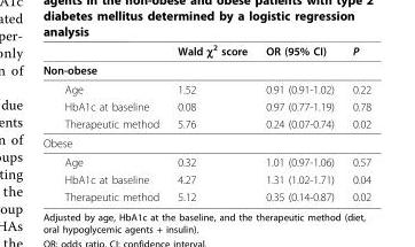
<table><thead><tr><td></td><td>Wald χ<sup>2</sup> score</td><td>OR (95% CI)</td><td>P</td></tr></thead><tbody><tr><td colspan="4">Non-obese</td></tr><tr><td>Age</td><td>1.52</td><td>0.91 (0.91-1.02)</td><td>0.22</td></tr><tr><td>HbA1c at baseline</td><td>0.08</td><td>0.97 (0.77-1.19)</td><td>0.78</td></tr><tr><td>Therapeutic method</td><td>5.76</td><td>0.24 (0.07-0.74)</td><td>0.02</td></tr><tr><td colspan="4">Obese</td></tr><tr><td>Age</td><td>0.32</td><td>1.01 (0.97-1.06)</td><td>0.57</td></tr><tr><td>HbA1c at baseline</td><td>4.27</td><td>1.31 (1.02-1.71)</td><td>0.04</td></tr><tr><td>Therapeutic method</td><td>5.12</td><td>0.35 (0.14-0.87)</td><td>0.02</td></tr></tbody></table>